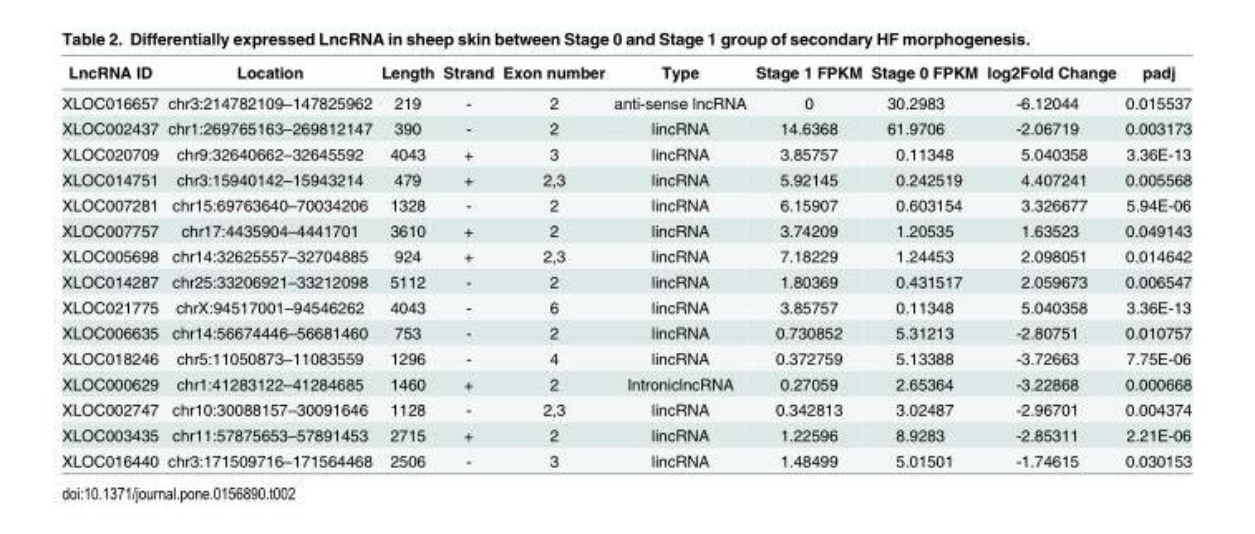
<table><thead><tr><td>LncRNA ID</td><td>Location</td><td>Length</td><td>Strand</td><td>Exon number</td><td>Type</td><td>Stage 1 FPKM</td><td>Stage 0 FPKM</td><td>log2Fold Change</td><td>padj</td></tr></thead><tbody><tr><td>XLOC016657</td><td>chr3:214782109–147825962</td><td>219</td><td>-</td><td>2</td><td>anti-sense lncRNA</td><td>0</td><td>30.2983</td><td>-6.12044</td><td>0.015537</td></tr><tr><td>XLOC002437</td><td>chr1:269765163–269812147</td><td>390</td><td>-</td><td>2</td><td>lincRNA</td><td>14.6368</td><td>61.9706</td><td>-2.06719</td><td>0.003173</td></tr><tr><td>XLOC020709</td><td>chr9:32640662–32645592</td><td>4043</td><td>+</td><td>3</td><td>lincRNA</td><td>3.85757</td><td>0.11348</td><td>5.040358</td><td>3.36E-13</td></tr><tr><td>XLOC014751</td><td>chr3:15940142–15943214</td><td>479</td><td>+</td><td>2,3</td><td>lincRNA</td><td>5.92145</td><td>0.242519</td><td>4.407241</td><td>0.005568</td></tr><tr><td>XLOC007281</td><td>chr15:69763640–70034206</td><td>1328</td><td>-</td><td>2</td><td>lincRNA</td><td>6.15907</td><td>0.603154</td><td>3.326677</td><td>5.94E-06</td></tr><tr><td>XLOC007757</td><td>chr17:4435904–4441701</td><td>3610</td><td>+</td><td>2</td><td>lincRNA</td><td>3.74209</td><td>1.20535</td><td>1.63523</td><td>0.049143</td></tr><tr><td>XLOC005698</td><td>chr14:32625557–32704885</td><td>924</td><td>+</td><td>2,3</td><td>lincRNA</td><td>7.18229</td><td>1.24453</td><td>2.098051</td><td>0.014642</td></tr><tr><td>XLOC014287</td><td>chr25:33206921–33212098</td><td>5112</td><td>-</td><td>2</td><td>lincRNA</td><td>1.80369</td><td>0.431517</td><td>2.059673</td><td>0.006547</td></tr><tr><td>XLOC021775</td><td>chrX:94517001–94546262</td><td>4043</td><td>-</td><td>6</td><td>lincRNA</td><td>3.85757</td><td>0.11348</td><td>5.040358</td><td>3.36E-13</td></tr><tr><td>XLOC006635</td><td>chr14:56674446–56681460</td><td>753</td><td>-</td><td>2</td><td>lincRNA</td><td>0.730852</td><td>5.31213</td><td>-2.80751</td><td>0.010757</td></tr><tr><td>XLOC018246</td><td>chr5:11050873–11083559</td><td>1296</td><td>-</td><td>4</td><td>lincRNA</td><td>0.372759</td><td>5.13388</td><td>-3.72663</td><td>7.75E-06</td></tr><tr><td>XLOC000629</td><td>chr1:41283122–41284685</td><td>1460</td><td>+</td><td>2</td><td>IntroniclncRNA</td><td>0.27059</td><td>2.65364</td><td>-3.22868</td><td>0.000668</td></tr><tr><td>XLOC002747</td><td>chr10:30088157–30091646</td><td>1128</td><td>-</td><td>2,3</td><td>lincRNA</td><td>0.342813</td><td>3.02487</td><td>-2.96701</td><td>0.004374</td></tr><tr><td>XLOC003435</td><td>chr11:57875653–57891453</td><td>2715</td><td>+</td><td>2</td><td>lincRNA</td><td>1.22596</td><td>8.9283</td><td>-2.85311</td><td>2.21E-06</td></tr><tr><td>XLOC016440</td><td>chr3:171509716–171564468</td><td>2506</td><td>-</td><td>3</td><td>lincRNA</td><td>1.48499</td><td>5.01501</td><td>-1.74615</td><td>0.030153</td></tr></tbody></table>